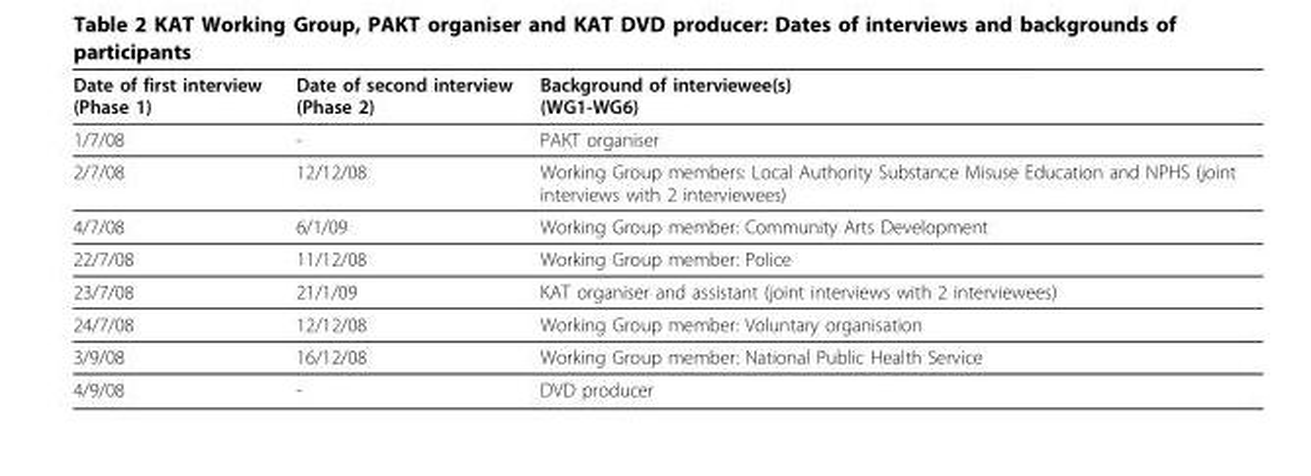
<table><thead><tr><td>Date of first interview (Phase 1)</td><td>Date of second interview (Phase 2)</td><td>Background of interviewee(s) (WG1-WG6)</td></tr></thead><tbody><tr><td>1/7/08</td><td>-</td><td>PAKT organiser</td></tr><tr><td>2/7/08</td><td>12/12/08</td><td>Working Group members: Local Authority Substance Misuse Education and NPHS (joint interviews with 2 interviewees)</td></tr><tr><td>4/7/08</td><td>6/1/09</td><td>Working Group member: Community Arts Development</td></tr><tr><td>22/7/08</td><td>11/12/08</td><td>Working Group member: Police</td></tr><tr><td>23/7/08</td><td>21/1/09</td><td>KAT organiser and assistant (joint interviews with 2 interviewees)</td></tr><tr><td>24/7/08</td><td>12/12/08</td><td>Working Group member: Voluntary organisation</td></tr><tr><td>3/9/08</td><td>16/12/08</td><td>Working Group member: National Public Health Service</td></tr><tr><td>4/9/08</td><td>-</td><td>DVD producer</td></tr></tbody></table>